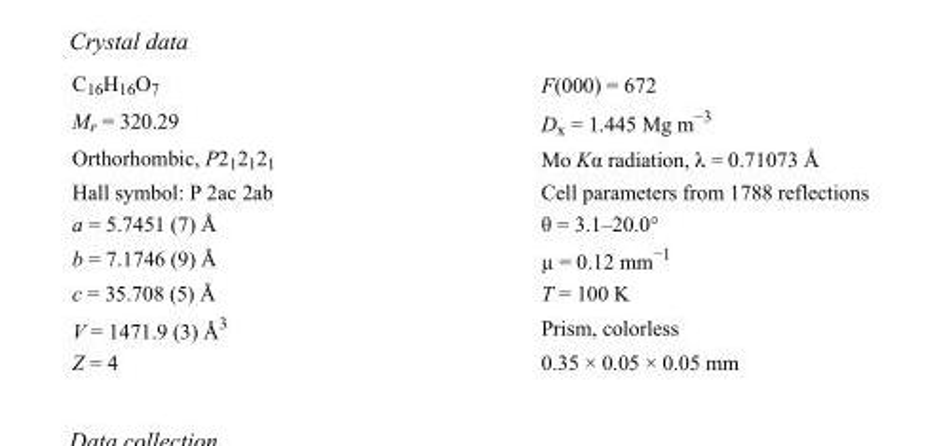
<table><tbody><tr><td>C<sub>16</sub>H<sub>16</sub>O<sub>7</sub></td><td>F(000) = 672</td></tr><tr><td>M<sub>r</sub> = 320.29</td><td>D<sub>x</sub> = 1.445 Mg m<sup>−3</sup></td></tr><tr><td>Orthorhombic, P2<sub>1</sub>2<sub>1</sub>2<sub>1</sub></td><td>Mo Kα radiation, λ = 0.71073 Å</td></tr><tr><td>Hall symbol: P 2ac 2ab</td><td>Cell parameters from 1788 reflections</td></tr><tr><td>a = 5.7451 (7) Å</td><td>θ = 3.1–20.0°</td></tr><tr><td>b = 7.1746 (9) Å</td><td>µ = 0.12 mm<sup>−1</sup></td></tr><tr><td>c = 35.708 (5) Å</td><td>T = 100 K</td></tr><tr><td>V = 1471.9 (3) Å<sup>3</sup></td><td>Prism, colorless</td></tr><tr><td>Z = 4</td><td>0.35 × 0.05 × 0.05 mm</td></tr></tbody></table>